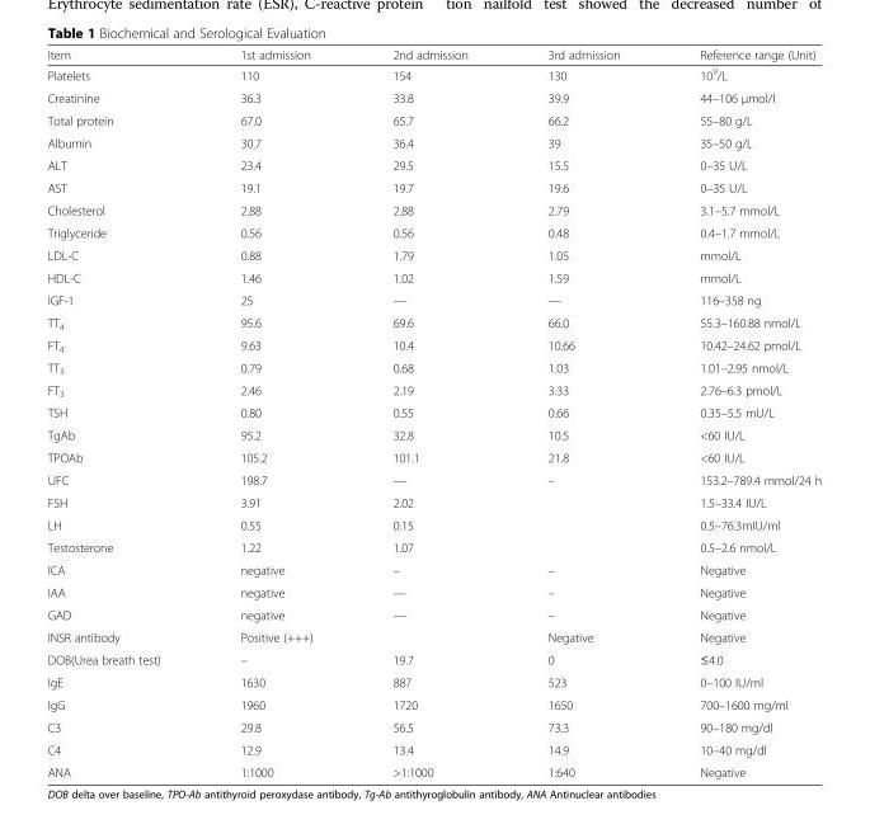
<table><thead><tr><td>Item</td><td>1st admission</td><td>2nd admission</td><td>3rd admission</td><td>Reference range (Unit)</td></tr></thead><tbody><tr><td>Platelets</td><td>110</td><td>154</td><td>130</td><td>10<sup>9</sup>/L</td></tr><tr><td>Creatinine</td><td>36.3</td><td>33.8</td><td>39.9</td><td>44–106 μmol/l</td></tr><tr><td>Total protein</td><td>67.0</td><td>65.7</td><td>66.2</td><td>55–80 g/L</td></tr><tr><td>Albumin</td><td>30.7</td><td>36.4</td><td>39</td><td>35–50 g/L</td></tr><tr><td>ALT</td><td>23.4</td><td>29.5</td><td>15.5</td><td>0–35 U/L</td></tr><tr><td>AST</td><td>19.1</td><td>19.7</td><td>19.6</td><td>0–35 U/L</td></tr><tr><td>Cholesterol</td><td>2.88</td><td>2.88</td><td>2.79</td><td>3.1–5.7 mmol/L</td></tr><tr><td>Triglyceride</td><td>0.56</td><td>0.56</td><td>0.48</td><td>0.4–1.7 mmol/L</td></tr><tr><td>LDL-C</td><td>0.88</td><td>1.79</td><td>1.05</td><td>mmol/L</td></tr><tr><td>HDL-C</td><td>1.46</td><td>1.02</td><td>1.59</td><td>mmol/L</td></tr><tr><td>IGF-1</td><td>25</td><td>—</td><td>—</td><td>116–358 ng</td></tr><tr><td>TT<sub>4</sub></td><td>95.6</td><td>69.6</td><td>66.0</td><td>55.3–160.88 nmol/L</td></tr><tr><td>FT<sub>4</sub></td><td>9.63</td><td>10.4</td><td>10.66</td><td>10.42–24.62 pmol/L</td></tr><tr><td>TT<sub>3</sub></td><td>0.79</td><td>0.68</td><td>1.03</td><td>1.01–2.95 nmol/L</td></tr><tr><td>FT<sub>3</sub></td><td>2.46</td><td>2.19</td><td>3.33</td><td>2.76–6.3 pmol/L</td></tr><tr><td>TSH</td><td>0.80</td><td>0.55</td><td>0.66</td><td>0.35–5.5 mU/L</td></tr><tr><td>TgAb</td><td>95.2</td><td>32.8</td><td>10.5</td><td>&lt;60 IU/L</td></tr><tr><td>TPOAb</td><td>105.2</td><td>101.1</td><td>21.8</td><td>&lt;60 IU/L</td></tr><tr><td>UFC</td><td>198.7</td><td>—</td><td>–</td><td>153.2–789.4 mmol/24 h</td></tr><tr><td>FSH</td><td>3.91</td><td>2.02</td><td></td><td>1.5–33.4 IU/L</td></tr><tr><td>LH</td><td>0.55</td><td>0.15</td><td></td><td>0.5–76.3mIU/ml</td></tr><tr><td>Testosterone</td><td>1.22</td><td>1.07</td><td></td><td>0.5–2.6 nmol/L</td></tr><tr><td>ICA</td><td>negative</td><td>–</td><td>–</td><td>Negative</td></tr><tr><td>IAA</td><td>negative</td><td>—</td><td>–</td><td>Negative</td></tr><tr><td>GAD</td><td>negative</td><td>—</td><td>–</td><td>Negative</td></tr><tr><td>INSR antibody</td><td>Positive (+++)</td><td></td><td>Negative</td><td>Negative</td></tr><tr><td>DOB(Urea breath test)</td><td>–</td><td>19.7</td><td>0</td><td>≤4.0</td></tr><tr><td>IgE</td><td>1630</td><td>887</td><td>523</td><td>0–100 IU/ml</td></tr><tr><td>IgG</td><td>1960</td><td>1720</td><td>1650</td><td>700–1600 mg/ml</td></tr><tr><td>C3</td><td>29.8</td><td>56.5</td><td>73.3</td><td>90–180 mg/dl</td></tr><tr><td>C4</td><td>12.9</td><td>13.4</td><td>14.9</td><td>10–40 mg/dl</td></tr><tr><td>ANA</td><td>1:1000</td><td>&gt;1:1000</td><td>1:640</td><td>Negative</td></tr></tbody></table>